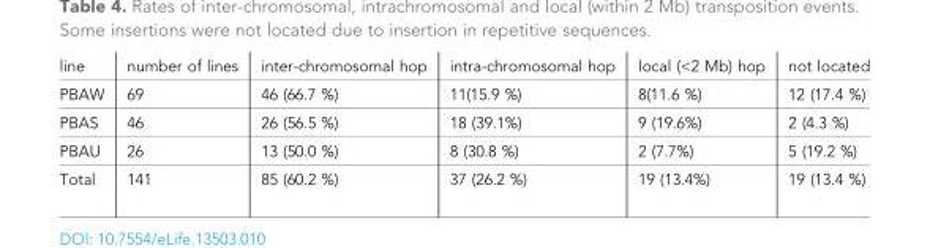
<table><tbody><tr><td>line</td><td>number of lines</td><td>inter-chromosomal hop</td><td>intra-chromosomal hop</td><td>local (&lt;2 Mb) hop</td><td>not located</td></tr><tr><td>PBAW</td><td>69</td><td>46 (66.7 %)</td><td>11(15.9 %)</td><td>8(11.6 %)</td><td>12 (17.4 %)</td></tr><tr><td>PBAS</td><td>46</td><td>26 (56.5 %)</td><td>18 (39.1%)</td><td>9 (19.6%)</td><td>2 (4.3 %)</td></tr><tr><td>PBAU</td><td>26</td><td>13 (50.0 %)</td><td>8 (30.8 %)</td><td>2 (7.7%)</td><td>5 (19.2 %)</td></tr><tr><td>Total</td><td>141</td><td>85 (60.2 %)</td><td>37 (26.2 %)</td><td>19 (13.4%)</td><td>19 (13.4 %)</td></tr></tbody></table>